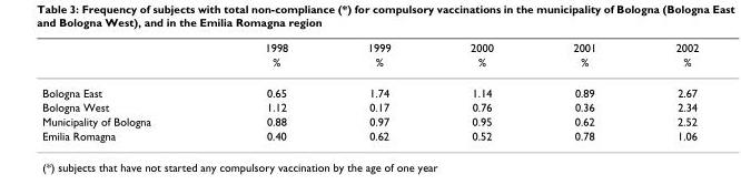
<table><thead><tr><td rowspan="2"></td><td rowspan="2">1998 %</td><td rowspan="2">1999 %</td><td rowspan="2">2000 %</td><td rowspan="2">2001 %</td><td rowspan="2">2002 %</td></tr><tr></tr></thead><tbody><tr><td>Bologna East</td><td>0.65</td><td>1.74</td><td>1.14</td><td>0.89</td><td>2.67</td></tr><tr><td>Bologna West</td><td>1.12</td><td>0.17</td><td>0.76</td><td>0.36</td><td>2.34</td></tr><tr><td>Municipality of Bologna</td><td>0.88</td><td>0.97</td><td>0.95</td><td>0.62</td><td>2.52</td></tr><tr><td>Emilia Romagna</td><td>0.40</td><td>0.62</td><td>0.52</td><td>0.78</td><td>1.06</td></tr></tbody></table>